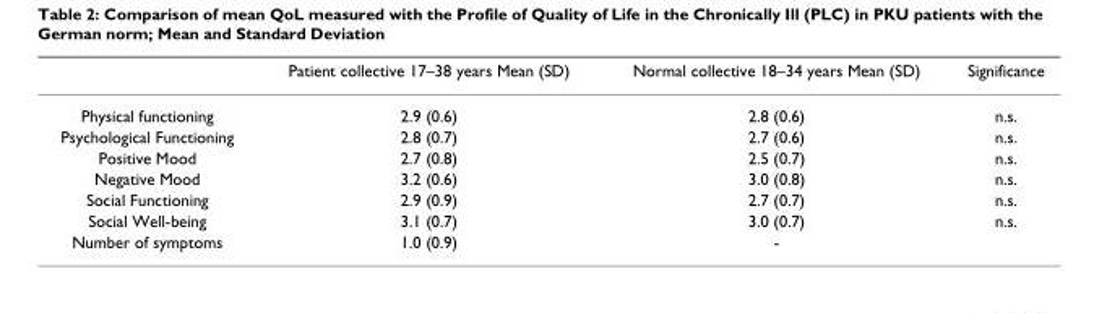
<table><thead><tr><td></td><td>Patient collective 17–38 years Mean (SD)</td><td>Normal collective 18–34 years Mean (SD)</td><td>Significance</td></tr></thead><tbody><tr><td>Physical functioning</td><td>2.9 (0.6)</td><td>2.8 (0.6)</td><td>n.s.</td></tr><tr><td>Psychological Functioning</td><td>2.8 (0.7)</td><td>2.7 (0.6)</td><td>n.s.</td></tr><tr><td>Positive Mood</td><td>2.7 (0.8)</td><td>2.5 (0.7)</td><td>n.s.</td></tr><tr><td>Negative Mood</td><td>3.2 (0.6)</td><td>3.0 (0.8)</td><td>n.s.</td></tr><tr><td>Social Functioning</td><td>2.9 (0.9)</td><td>2.7 (0.7)</td><td>n.s.</td></tr><tr><td>Social Well-being</td><td>3.1 (0.7)</td><td>3.0 (0.7)</td><td>n.s.</td></tr><tr><td>Number of symptoms</td><td>1.0 (0.9)</td><td>-</td><td></td></tr></tbody></table>